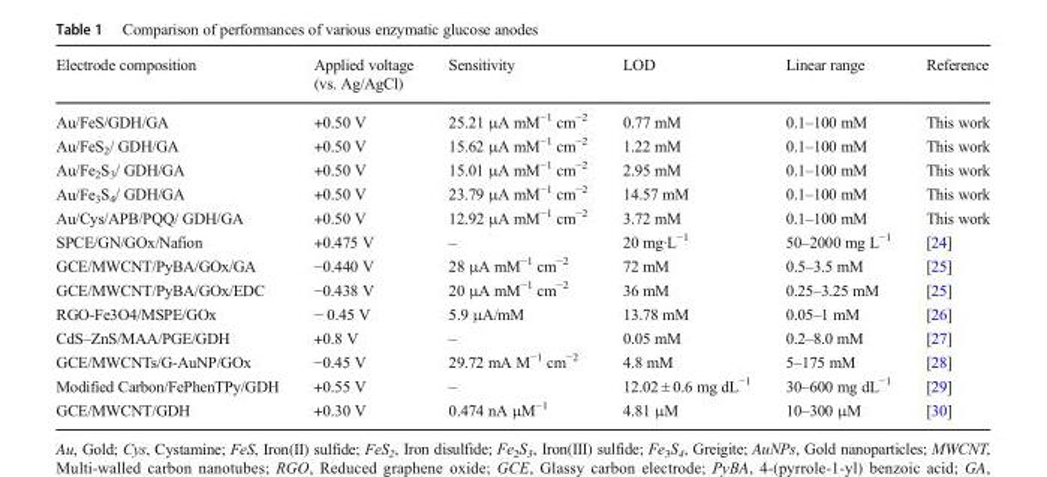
<table><thead><tr><td>Electrode composition</td><td>Applied voltage (vs. Ag/AgCl)</td><td>Sensitivity</td><td>LOD</td><td>Linear range</td><td>Reference</td></tr></thead><tbody><tr><td>Au/FeS/GDH/GA</td><td>+0.50 V</td><td>25.21 μA mM<sup>−1</sup> cm<sup>−2</sup></td><td>0.77 mM</td><td>0.1–100 mM</td><td>This work</td></tr><tr><td>Au/FeS<sub>2</sub>/ GDH/GA</td><td>+0.50 V</td><td>15.62 μA mM<sup>−1</sup> cm<sup>−2</sup></td><td>1.22 mM</td><td>0.1–100 mM</td><td>This work</td></tr><tr><td>Au/Fe<sub>2</sub>S<sub>3</sub>/ GDH/GA</td><td>+0.50 V</td><td>15.01 μA mM<sup>−1</sup> cm<sup>−2</sup></td><td>2.95 mM</td><td>0.1–100 mM</td><td>This work</td></tr><tr><td>Au/Fe<sub>3</sub>S<sub>4</sub>/ GDH/GA</td><td>+0.50 V</td><td>23.79 μA mM<sup>−1</sup> cm<sup>−2</sup></td><td>14.57 mM</td><td>0.1–100 mM</td><td>This work</td></tr><tr><td>Au/Cys/APB/PQQ/ GDH/GA</td><td>+0.50 V</td><td>12.92 μA mM<sup>−1</sup> cm<sup>−2</sup></td><td>3.72 mM</td><td>0.1–100 mM</td><td>This work</td></tr><tr><td>SPCE/GN/GOx/Nafion</td><td>+0.475 V</td><td>–</td><td>20 mg·L<sup>−1</sup></td><td>50–2000 mg L<sup>−1</sup></td><td>[24]</td></tr><tr><td>GCE/MWCNT/PyBA/GOx/GA</td><td>−0.440 V</td><td>28 μA mM<sup>−1</sup> cm<sup>−2</sup></td><td>72 mM</td><td>0.5–3.5 mM</td><td>[25]</td></tr><tr><td>GCE/MWCNT/PyBA/GOx/EDC</td><td>−0.438 V</td><td>20 μA mM<sup>−1</sup> cm<sup>−2</sup></td><td>36 mM</td><td>0.25–3.25 mM</td><td>[25]</td></tr><tr><td>RGO-Fe3O4/MSPE/GOx</td><td>− 0.45 V</td><td>5.9 μA/mM</td><td>13.78 mM</td><td>0.05–1 mM</td><td>[26]</td></tr><tr><td>CdS–ZnS/MAA/PGE/GDH</td><td>+0.8 V</td><td>–</td><td>0.05 mM</td><td>0.2–8.0 mM</td><td>[27]</td></tr><tr><td>GCE/MWCNTs/G-AuNP/GOx</td><td>−0.45 V</td><td>29.72 mA M<sup>−1</sup> cm<sup>−2</sup></td><td>4.8 mM</td><td>5–175 mM</td><td>[28]</td></tr><tr><td>Modified Carbon/FePhenTPy/GDH</td><td>+0.55 V</td><td>–</td><td>12.02 ± 0.6 mg dL<sup>−1</sup></td><td>30–600 mg dL<sup>−1</sup></td><td>[29]</td></tr><tr><td>GCE/MWCNT/GDH</td><td>+0.30 V</td><td>0.474 nA μM<sup>−1</sup></td><td>4.81 μM</td><td>10–300 μM</td><td>[30]</td></tr></tbody></table>